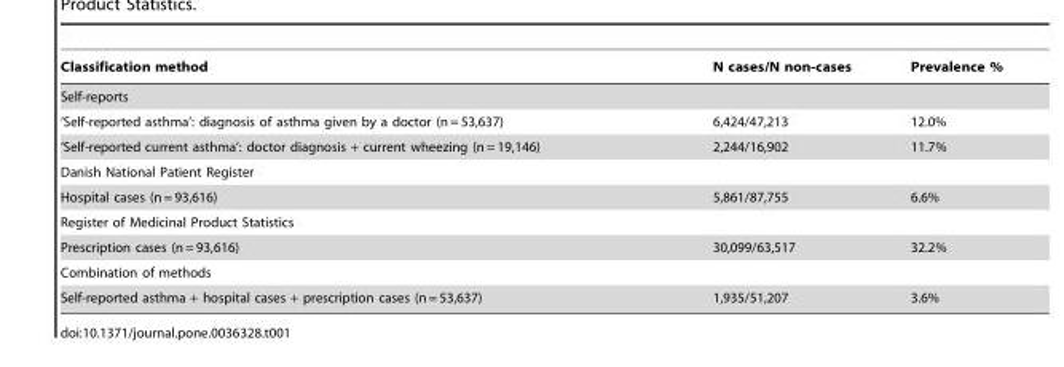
<table><thead><tr><td>Classification method</td><td>N cases/N non-cases</td><td>Prevalence %</td></tr></thead><tbody><tr><td colspan="3">Self-reports</td></tr><tr><td>‘Self-reported asthma’: diagnosis of asthma given by a doctor (n = 53,637)</td><td>6,424/47,213</td><td>12.0%</td></tr><tr><td>‘Self-reported current asthma’: doctor diagnosis + current wheezing (n = 19,146)</td><td>2,244/16,902</td><td>11.7%</td></tr><tr><td colspan="3">Danish National Patient Register</td></tr><tr><td>Hospital cases (n = 93,616)</td><td>5,861/87,755</td><td>6.6%</td></tr><tr><td colspan="3">Register of Medicinal Product Statistics</td></tr><tr><td>Prescription cases (n = 93,616)</td><td>30,099/63,517</td><td>32.2%</td></tr><tr><td colspan="3">Combination of methods</td></tr><tr><td>Self-reported asthma + hospital cases + prescription cases (n = 53,637)</td><td>1,935/51,207</td><td>3.6%</td></tr></tbody></table>